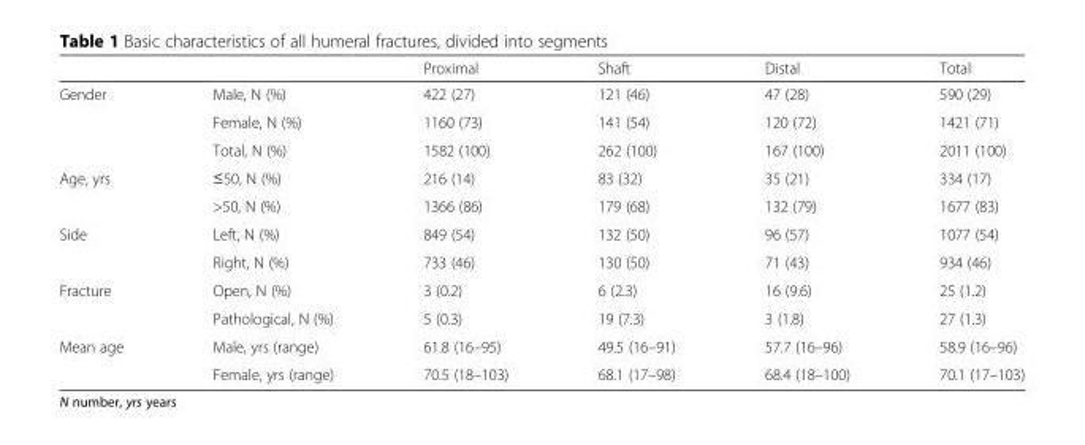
<table><thead><tr><td></td><td></td><td>Proximal</td><td>Shaft</td><td>Distal</td><td>Total</td></tr></thead><tbody><tr><td rowspan="3">Gender</td><td>Male, N (%)</td><td>422 (27)</td><td>121 (46)</td><td>47 (28)</td><td>590 (29)</td></tr><tr><td>Female, N (%)</td><td>1160 (73)</td><td>141 (54)</td><td>120 (72)</td><td>1421 (71)</td></tr><tr><td>Total, N (%)</td><td>1582 (100)</td><td>262 (100)</td><td>167 (100)</td><td>2011 (100)</td></tr><tr><td rowspan="2">Age, yrs</td><td>≤50, N (%)</td><td>216 (14)</td><td>83 (32)</td><td>35 (21)</td><td>334 (17)</td></tr><tr><td>&gt;50, N (%)</td><td>1366 (86)</td><td>179 (68)</td><td>132 (79)</td><td>1677 (83)</td></tr><tr><td rowspan="2">Side</td><td>Left, N (%)</td><td>849 (54)</td><td>132 (50)</td><td>96 (57)</td><td>1077 (54)</td></tr><tr><td>Right, N (%)</td><td>733 (46)</td><td>130 (50)</td><td>71 (43)</td><td>934 (46)</td></tr><tr><td rowspan="2">Fracture</td><td>Open, N (%)</td><td>3 (0.2)</td><td>6 (2.3)</td><td>16 (9.6)</td><td>25 (1.2)</td></tr><tr><td>Pathological, N (%)</td><td>5 (0.3)</td><td>19 (7.3)</td><td>3 (1.8)</td><td>27 (1.3)</td></tr><tr><td rowspan="2">Mean age</td><td>Male, yrs (range)</td><td>61.8 (16–95)</td><td>49.5 (16–91)</td><td>57.7 (16–96)</td><td>58.9 (16–96)</td></tr><tr><td>Female, yrs (range)</td><td>70.5 (18–103)</td><td>68.1 (17–98)</td><td>68.4 (18–100)</td><td>70.1 (17–103)</td></tr></tbody></table>